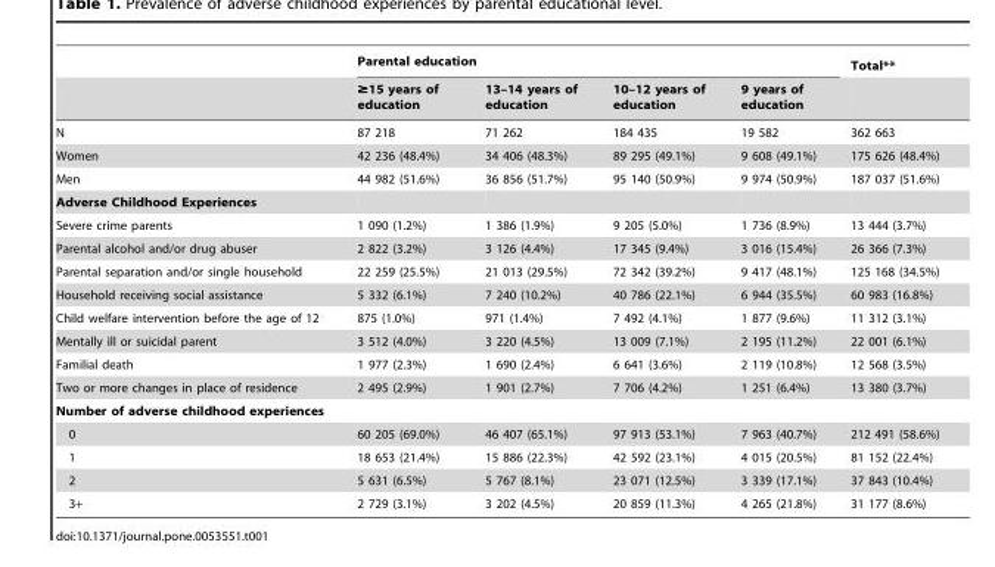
<table><thead><tr><td rowspan="2"></td><td colspan="4">Parental education</td><td rowspan="2">Total**</td></tr><tr><td>≥15 years of education</td><td>13–14 years of education</td><td>10–12 years of education</td><td>9 years of education</td></tr></thead><tbody><tr><td>N</td><td>87 218</td><td>71 262</td><td>184 435</td><td>19 582</td><td>362 663</td></tr><tr><td>Women</td><td>42 236 (48.4%)</td><td>34 406 (48.3%)</td><td>89 295 (49.1%)</td><td>9 608 (49.1%)</td><td>175 626 (48.4%)</td></tr><tr><td>Men</td><td>44 982 (51.6%)</td><td>36 856 (51.7%)</td><td>95 140 (50.9%)</td><td>9 974 (50.9%)</td><td>187 037 (51.6%)</td></tr><tr><td colspan="6">Adverse Childhood Experiences</td></tr><tr><td>Severe crime parents</td><td>1 090 (1.2%)</td><td>1 386 (1.9%)</td><td>9 205 (5.0%)</td><td>1 736 (8.9%)</td><td>13 444 (3.7%)</td></tr><tr><td>Parental alcohol and/or drug abuser</td><td>2 822 (3.2%)</td><td>3 126 (4.4%)</td><td>17 345 (9.4%)</td><td>3 016 (15.4%)</td><td>26 366 (7.3%)</td></tr><tr><td>Parental separation and/or single household</td><td>22 259 (25.5%)</td><td>21 013 (29.5%)</td><td>72 342 (39.2%)</td><td>9 417 (48.1%)</td><td>125 168 (34.5%)</td></tr><tr><td>Household receiving social assistance</td><td>5 332 (6.1%)</td><td>7 240 (10.2%)</td><td>40 786 (22.1%)</td><td>6 944 (35.5%)</td><td>60 983 (16.8%)</td></tr><tr><td>Child welfare intervention before the age of 12</td><td>875 (1.0%)</td><td>971 (1.4%)</td><td>7 492 (4.1%)</td><td>1 877 (9.6%)</td><td>11 312 (3.1%)</td></tr><tr><td>Mentally ill or suicidal parent</td><td>3 512 (4.0%)</td><td>3 220 (4.5%)</td><td>13 009 (7.1%)</td><td>2 195 (11.2%)</td><td>22 001 (6.1%)</td></tr><tr><td>Familial death</td><td>1 977 (2.3%)</td><td>1 690 (2.4%)</td><td>6 641 (3.6%)</td><td>2 119 (10.8%)</td><td>12 568 (3.5%)</td></tr><tr><td>Two or more changes in place of residence</td><td>2 495 (2.9%)</td><td>1 901 (2.7%)</td><td>7 706 (4.2%)</td><td>1 251 (6.4%)</td><td>13 380 (3.7%)</td></tr><tr><td colspan="6">Number of adverse childhood experiences</td></tr><tr><td>0</td><td>60 205 (69.0%)</td><td>46 407 (65.1%)</td><td>97 913 (53.1%)</td><td>7 963 (40.7%)</td><td>212 491 (58.6%)</td></tr><tr><td>1</td><td>18 653 (21.4%)</td><td>15 886 (22.3%)</td><td>42 592 (23.1%)</td><td>4 015 (20.5%)</td><td>81 152 (22.4%)</td></tr><tr><td>2</td><td>5 631 (6.5%)</td><td>5 767 (8.1%)</td><td>23 071 (12.5%)</td><td>3 339 (17.1%)</td><td>37 843 (10.4%)</td></tr><tr><td>3+</td><td>2 729 (3.1%)</td><td>3 202 (4.5%)</td><td>20 859 (11.3%)</td><td>4 265 (21.8%)</td><td>31 177 (8.6%)</td></tr></tbody></table>